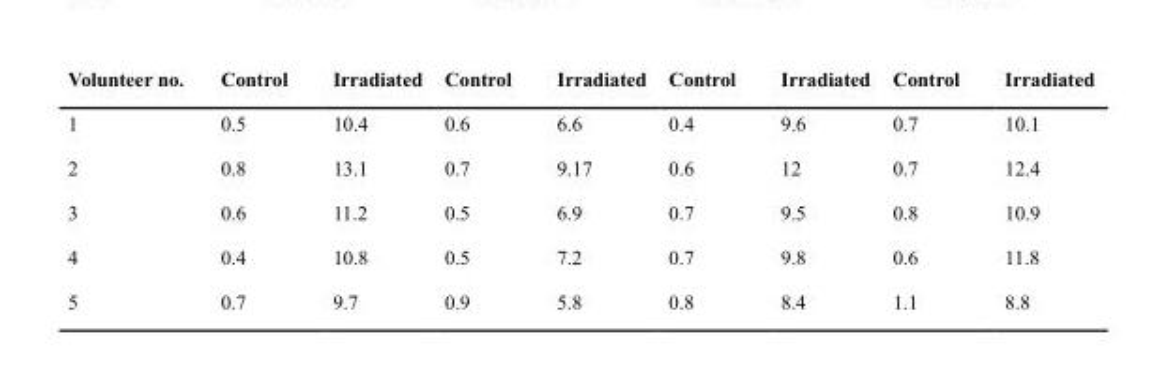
<table><thead><tr><td>Volunteer no.</td><td>Control</td><td>Irradiated</td><td>Control</td><td>Irradiated</td><td>Control</td><td>Irradiated</td><td>Control</td><td>Irradiated</td></tr></thead><tbody><tr><td>1</td><td>0.5</td><td>10.4</td><td>0.6</td><td>6.6</td><td>0.4</td><td>9.6</td><td>0.7</td><td>10.1</td></tr><tr><td>2</td><td>0.8</td><td>13.1</td><td>0.7</td><td>9.17</td><td>0.6</td><td>12</td><td>0.7</td><td>12.4</td></tr><tr><td>3</td><td>0.6</td><td>11.2</td><td>0.5</td><td>6.9</td><td>0.7</td><td>9.5</td><td>0.8</td><td>10.9</td></tr><tr><td>4</td><td>0.4</td><td>10.8</td><td>0.5</td><td>7.2</td><td>0.7</td><td>9.8</td><td>0.6</td><td>11.8</td></tr><tr><td>5</td><td>0.7</td><td>9.7</td><td>0.9</td><td>5.8</td><td>0.8</td><td>8.4</td><td>1.1</td><td>8.8</td></tr></tbody></table>